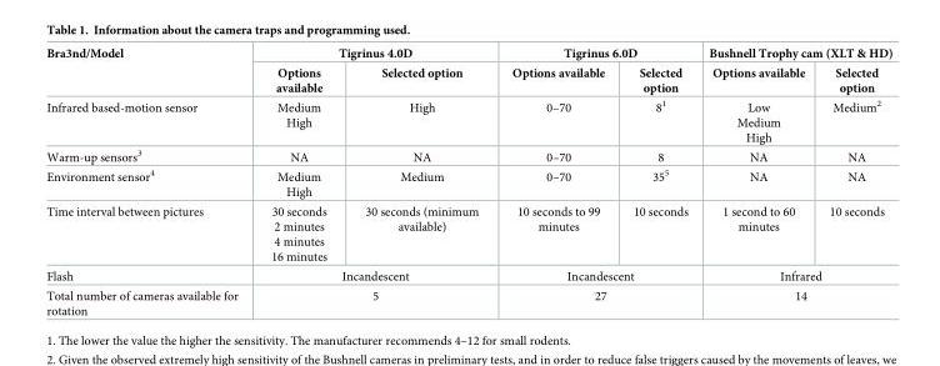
<table><thead><tr><td rowspan="2">Bra3nd/Model</td><td colspan="2">Tigrinus 4.0D</td><td colspan="2">Tigrinus 6.0D</td><td colspan="2">Bushnell Trophy cam (XLT &amp; HD)</td></tr><tr><td>Options available</td><td>Selected option</td><td>Options available</td><td>Selected option</td><td>Options available</td><td>Selected option</td></tr></thead><tbody><tr><td>Infrared based-motion sensor</td><td>Medium High</td><td>High</td><td>0–70</td><td>8<sup>1</sup></td><td>Low Medium High</td><td>Medium<sup>2</sup></td></tr><tr><td>Warm-up sensors<sup>3</sup></td><td>NA</td><td>NA</td><td>0–70</td><td>8</td><td>NA</td><td>NA</td></tr><tr><td>Environment sensor<sup>4</sup></td><td>Medium High</td><td>Medium</td><td>0–70</td><td>35<sup>5</sup></td><td>NA</td><td>NA</td></tr><tr><td>Time interval between pictures</td><td>30 seconds 2 minutes 4 minutes 16 minutes</td><td>30 seconds (minimum available)</td><td>10 seconds to 99 minutes</td><td>10 seconds</td><td>1 second to 60 minutes</td><td>10 seconds</td></tr><tr><td>Flash</td><td colspan="2">Incandescent</td><td colspan="2">Incandescent</td><td colspan="2">Infrared</td></tr><tr><td>Total number of cameras available for rotation</td><td colspan="2">5</td><td colspan="2">27</td><td colspan="2">14</td></tr></tbody></table>